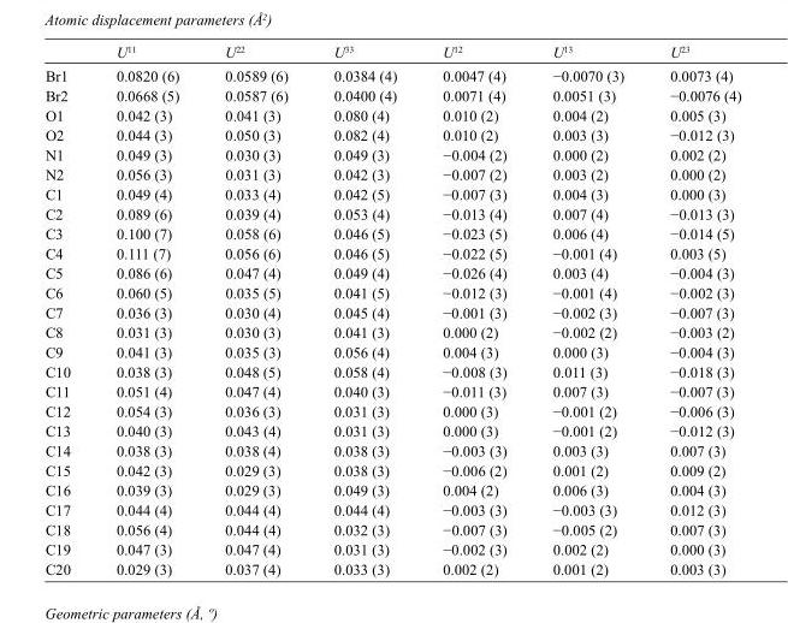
<table><thead><tr><td></td><td>U<sup>11</sup></td><td>U<sup>22</sup></td><td>U<sup>33</sup></td><td>U<sup>12</sup></td><td>U<sup>13</sup></td><td>U<sup>23</sup></td></tr></thead><tbody><tr><td>Br1</td><td>0.0820 (6)</td><td>0.0589 (6)</td><td>0.0384 (4)</td><td>0.0047 (4)</td><td>−0.0070 (3)</td><td>0.0073 (4)</td></tr><tr><td>Br2</td><td>0.0668 (5)</td><td>0.0587 (6)</td><td>0.0400 (4)</td><td>0.0071 (4)</td><td>0.0051 (3)</td><td>−0.0076 (4)</td></tr><tr><td>O1</td><td>0.042 (3)</td><td>0.041 (3)</td><td>0.080 (4)</td><td>0.010 (2)</td><td>0.004 (2)</td><td>0.005 (3)</td></tr><tr><td>O2</td><td>0.044 (3)</td><td>0.050 (3)</td><td>0.082 (4)</td><td>0.010 (2)</td><td>0.003 (3)</td><td>−0.012 (3)</td></tr><tr><td>N1</td><td>0.049 (3)</td><td>0.030 (3)</td><td>0.049 (3)</td><td>−0.004 (2)</td><td>0.000 (2)</td><td>0.002 (2)</td></tr><tr><td>N2</td><td>0.056 (3)</td><td>0.031 (3)</td><td>0.042 (3)</td><td>−0.007 (2)</td><td>0.003 (2)</td><td>0.000 (2)</td></tr><tr><td>C1</td><td>0.049 (4)</td><td>0.033 (4)</td><td>0.042 (5)</td><td>−0.007 (3)</td><td>0.004 (3)</td><td>0.000 (3)</td></tr><tr><td>C2</td><td>0.089 (6)</td><td>0.039 (4)</td><td>0.053 (4)</td><td>−0.013 (4)</td><td>0.007 (4)</td><td>−0.013 (3)</td></tr><tr><td>C3</td><td>0.100 (7)</td><td>0.058 (6)</td><td>0.046 (5)</td><td>−0.023 (5)</td><td>0.006 (4)</td><td>−0.014 (5)</td></tr><tr><td>C4</td><td>0.111 (7)</td><td>0.056 (6)</td><td>0.046 (5)</td><td>−0.022 (5)</td><td>−0.001 (4)</td><td>0.003 (5)</td></tr><tr><td>C5</td><td>0.086 (6)</td><td>0.047 (4)</td><td>0.049 (4)</td><td>−0.026 (4)</td><td>0.003 (4)</td><td>−0.004 (3)</td></tr><tr><td>C6</td><td>0.060 (5)</td><td>0.035 (5)</td><td>0.041 (5)</td><td>−0.012 (3)</td><td>−0.001 (4)</td><td>−0.002 (3)</td></tr><tr><td>C7</td><td>0.036 (3)</td><td>0.030 (4)</td><td>0.045 (4)</td><td>−0.001 (3)</td><td>−0.002 (3)</td><td>−0.007 (3)</td></tr><tr><td>C8</td><td>0.031 (3)</td><td>0.030 (3)</td><td>0.041 (3)</td><td>0.000 (2)</td><td>−0.002 (2)</td><td>−0.003 (2)</td></tr><tr><td>C9</td><td>0.041 (3)</td><td>0.035 (3)</td><td>0.056 (4)</td><td>0.004 (3)</td><td>0.000 (3)</td><td>−0.004 (3)</td></tr><tr><td>C10</td><td>0.038 (3)</td><td>0.048 (5)</td><td>0.058 (4)</td><td>−0.008 (3)</td><td>0.011 (3)</td><td>−0.018 (3)</td></tr><tr><td>C11</td><td>0.051 (4)</td><td>0.047 (4)</td><td>0.040 (3)</td><td>−0.011 (3)</td><td>0.007 (3)</td><td>−0.007 (3)</td></tr><tr><td>C12</td><td>0.054 (3)</td><td>0.036 (3)</td><td>0.031 (3)</td><td>0.000 (3)</td><td>−0.001 (2)</td><td>−0.006 (3)</td></tr><tr><td>C13</td><td>0.040 (3)</td><td>0.043 (4)</td><td>0.031 (3)</td><td>0.000 (3)</td><td>−0.001 (2)</td><td>−0.012 (3)</td></tr><tr><td>C14</td><td>0.038 (3)</td><td>0.038 (4)</td><td>0.038 (3)</td><td>−0.003 (3)</td><td>0.003 (3)</td><td>0.007 (3)</td></tr><tr><td>C15</td><td>0.042 (3)</td><td>0.029 (3)</td><td>0.038 (3)</td><td>−0.006 (2)</td><td>0.001 (2)</td><td>0.009 (2)</td></tr><tr><td>C16</td><td>0.039 (3)</td><td>0.029 (3)</td><td>0.049 (3)</td><td>0.004 (2)</td><td>0.006 (3)</td><td>0.004 (3)</td></tr><tr><td>C17</td><td>0.044 (4)</td><td>0.044 (4)</td><td>0.044 (4)</td><td>−0.003 (3)</td><td>−0.003 (3)</td><td>0.012 (3)</td></tr><tr><td>C18</td><td>0.056 (4)</td><td>0.044 (4)</td><td>0.032 (3)</td><td>−0.007 (3)</td><td>−0.005 (2)</td><td>0.007 (3)</td></tr><tr><td>C19</td><td>0.047 (3)</td><td>0.047 (4)</td><td>0.031 (3)</td><td>−0.002 (3)</td><td>0.002 (2)</td><td>0.000 (3)</td></tr><tr><td>C20</td><td>0.029 (3)</td><td>0.037 (4)</td><td>0.033 (3)</td><td>0.002 (2)</td><td>0.001 (2)</td><td>0.003 (3)</td></tr></tbody></table>